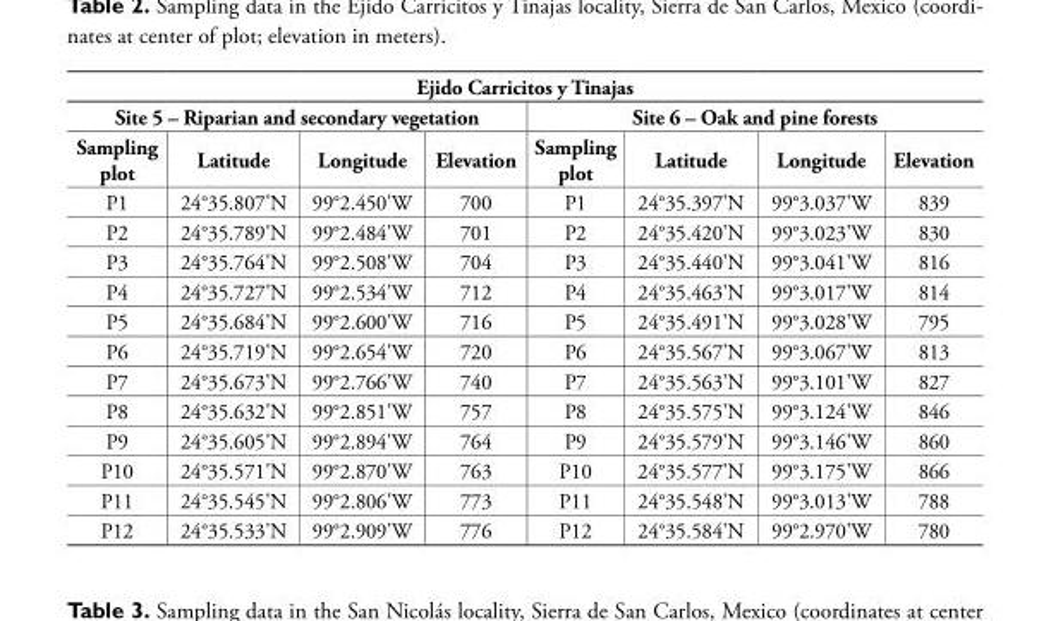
<table><thead><tr><td colspan="8">Ejido Carricitos y Tinajas</td></tr><tr><td colspan="4">Site 5 – Riparian and secondary vegetation</td><td colspan="4">Site 6 – Oak and pine forests</td></tr><tr><td>Sampling plot</td><td>Latitude</td><td>Longitude</td><td>Elevation</td><td>Sampling plot</td><td>Latitude</td><td>Longitude</td><td>Elevation</td></tr></thead><tbody><tr><td>P1</td><td>24°35.807&#x27;N</td><td>99°2.450&#x27;W</td><td>700</td><td>P1</td><td>24°35.397&#x27;N</td><td>99°3.037&#x27;W</td><td>839</td></tr><tr><td>P2</td><td>24°35.789&#x27;N</td><td>99°2.484&#x27;W</td><td>701</td><td>P2</td><td>24°35.420&#x27;N</td><td>99°3.023&#x27;W</td><td>830</td></tr><tr><td>P3</td><td>24°35.764&#x27;N</td><td>99°2.508&#x27;W</td><td>704</td><td>P3</td><td>24°35.440&#x27;N</td><td>99°3.041&#x27;W</td><td>816</td></tr><tr><td>P4</td><td>24°35.727&#x27;N</td><td>99°2.534&#x27;W</td><td>712</td><td>P4</td><td>24°35.463&#x27;N</td><td>99°3.017&#x27;W</td><td>814</td></tr><tr><td>P5</td><td>24°35.684&#x27;N</td><td>99°2.600&#x27;W</td><td>716</td><td>P5</td><td>24°35.491&#x27;N</td><td>99°3.028&#x27;W</td><td>795</td></tr><tr><td>P6</td><td>24°35.719&#x27;N</td><td>99°2.654&#x27;W</td><td>720</td><td>P6</td><td>24°35.567&#x27;N</td><td>99°3.067&#x27;W</td><td>813</td></tr><tr><td>P7</td><td>24°35.673&#x27;N</td><td>99°2.766&#x27;W</td><td>740</td><td>P7</td><td>24°35.563&#x27;N</td><td>99°3.101&#x27;W</td><td>827</td></tr><tr><td>P8</td><td>24°35.632&#x27;N</td><td>99°2.851&#x27;W</td><td>757</td><td>P8</td><td>24°35.575&#x27;N</td><td>99°3.124&#x27;W</td><td>846</td></tr><tr><td>P9</td><td>24°35.605&#x27;N</td><td>99°2.894&#x27;W</td><td>764</td><td>P9</td><td>24°35.579&#x27;N</td><td>99°3.146&#x27;W</td><td>860</td></tr><tr><td>P10</td><td>24°35.571&#x27;N</td><td>99°2.870&#x27;W</td><td>763</td><td>P10</td><td>24°35.577&#x27;N</td><td>99°3.175&#x27;W</td><td>866</td></tr><tr><td>P11</td><td>24°35.545&#x27;N</td><td>99°2.806&#x27;W</td><td>773</td><td>P11</td><td>24°35.548&#x27;N</td><td>99°3.013&#x27;W</td><td>788</td></tr><tr><td>P12</td><td>24°35.533&#x27;N</td><td>99°2.909&#x27;W</td><td>776</td><td>P12</td><td>24°35.584&#x27;N</td><td>99°2.970&#x27;W</td><td>780</td></tr></tbody></table>